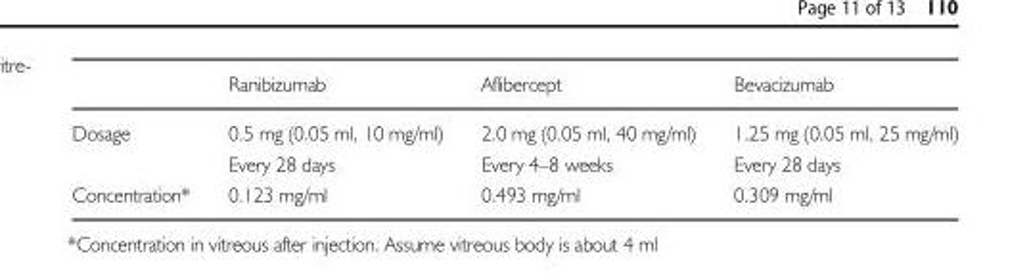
<table><thead><tr><td></td><td>Ranibizumab</td><td>Aflibercept</td><td>Bevacizumab</td></tr></thead><tbody><tr><td>Dosage</td><td>0.5 mg (0.05 ml, 10 mg/ml) Every 28 days</td><td>2.0 mg (0.05 ml, 40 mg/ml) Every 4–8 weeks</td><td>1.25 mg (0.05 ml, 25 mg/ml) Every 28 days</td></tr><tr><td>Concentration*</td><td>0.123 mg/ml</td><td>0.493 mg/ml</td><td>0.309 mg/ml</td></tr></tbody></table>